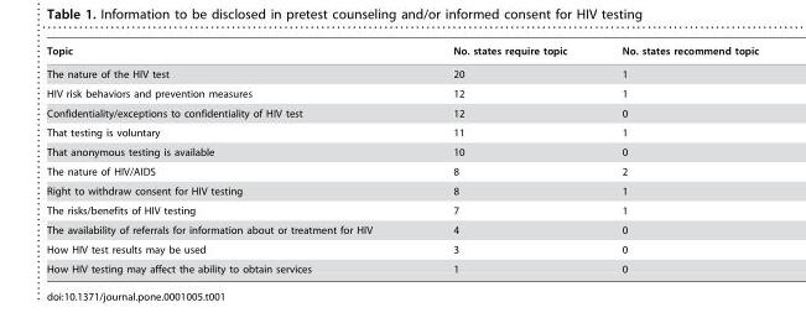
<table><thead><tr><td>Topic</td><td>No. states require topic</td><td>No. states recommend topic</td></tr></thead><tbody><tr><td>The nature of the HIV test</td><td>20</td><td>1</td></tr><tr><td>HIV risk behaviors and prevention measures</td><td>12</td><td>1</td></tr><tr><td>Confidentiality/exceptions to confidentiality of HIV test</td><td>12</td><td>0</td></tr><tr><td>That testing is voluntary</td><td>11</td><td>1</td></tr><tr><td>That anonymous testing is available</td><td>10</td><td>0</td></tr><tr><td>The nature of HIV/AIDS</td><td>8</td><td>2</td></tr><tr><td>Right to withdraw consent for HIV testing</td><td>8</td><td>1</td></tr><tr><td>The risks/benefits of HIV testing</td><td>7</td><td>1</td></tr><tr><td>The availability of referrals for information about or treatment for HIV</td><td>4</td><td>0</td></tr><tr><td>How HIV test results may be used</td><td>3</td><td>0</td></tr><tr><td>How HIV testing may affect the ability to obtain services</td><td>1</td><td>0</td></tr></tbody></table>